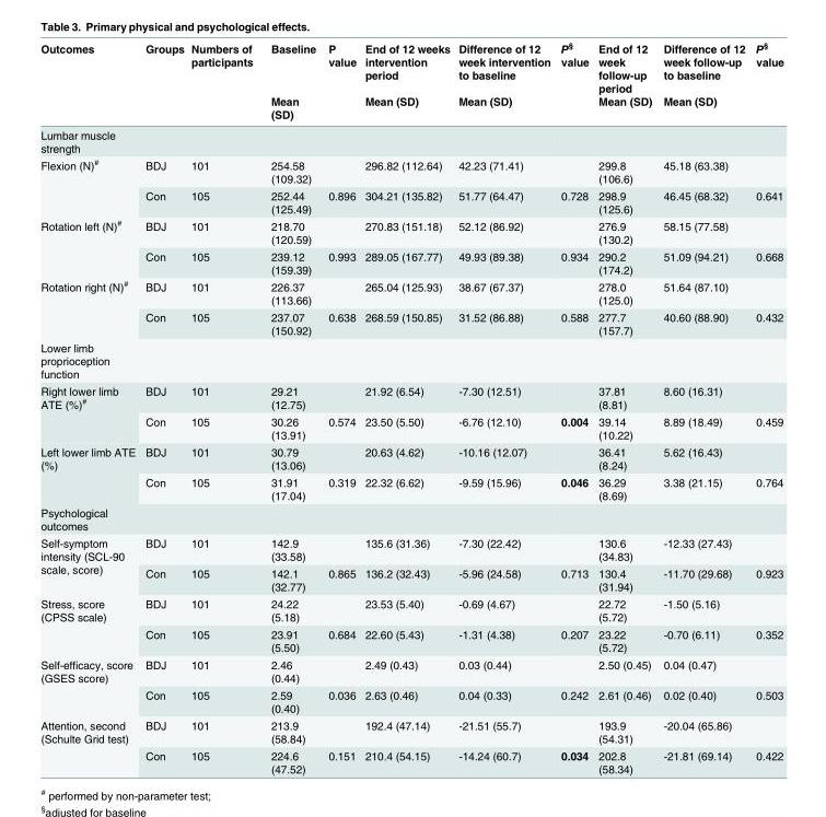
<table><thead><tr><td rowspan="2">Outcomes</td><td rowspan="2">Groups</td><td rowspan="2">Numbers of participants</td><td rowspan="2">Baseline Mean (SD)</td><td rowspan="2">P value</td><td rowspan="2">End of 12 weeks intervention period Mean (SD)</td><td rowspan="2">Difference of 12 week intervention to baseline Mean (SD)</td><td rowspan="2">P<sup>§</sup> value</td><td rowspan="2">End of 12 week follow-up period Mean (SD)</td><td rowspan="2">Difference of 12 week follow-up to baseline Mean (SD)</td><td rowspan="2">P<sup>§</sup> value</td></tr><tr></tr></thead><tbody><tr><td colspan="11">Lumbar muscle strength</td></tr><tr><td rowspan="2">Flexion (N)<sup>#</sup></td><td>BDJ</td><td>101</td><td>254.58 (109.32)</td><td></td><td>296.82 (112.64)</td><td>42.23 (71.41)</td><td></td><td>299.8 (106.6)</td><td>45.18 (63.38)</td><td></td></tr><tr><td>Con</td><td>105</td><td>252.44 (125.49)</td><td>0.896</td><td>304.21 (135.82)</td><td>51.77 (64.47)</td><td>0.728</td><td>298.9 (125.6)</td><td>46.45 (68.32)</td><td>0.641</td></tr><tr><td rowspan="2">Rotation left (N)<sup>#</sup></td><td>BDJ</td><td>101</td><td>218.70 (120.59)</td><td></td><td>270.83 (151.18)</td><td>52.12 (86.92)</td><td></td><td>276.9 (130.2)</td><td>58.15 (77.58)</td><td></td></tr><tr><td>Con</td><td>105</td><td>239.12 (159.39)</td><td>0.993</td><td>289.05 (167.77)</td><td>49.93 (89.38)</td><td>0.934</td><td>290.2 (174.2)</td><td>51.09 (94.21)</td><td>0.668</td></tr><tr><td rowspan="2">Rotation right (N)<sup>#</sup></td><td>BDJ</td><td>101</td><td>226.37 (113.66)</td><td></td><td>265.04 (125.93)</td><td>38.67 (67.37)</td><td></td><td>278.0 (125.0)</td><td>51.64 (87.10)</td><td></td></tr><tr><td>Con</td><td>105</td><td>237.07 (150.92)</td><td>0.638</td><td>268.59 (150.85)</td><td>31.52 (86.88)</td><td>0.588</td><td>277.7 (157.7)</td><td>40.60 (88.90)</td><td>0.432</td></tr><tr><td colspan="11">Lower limb proprioception function</td></tr><tr><td rowspan="2">Right lower limb ATE (%)<sup>#</sup></td><td>BDJ</td><td>101</td><td>29.21 (12.75)</td><td></td><td>21.92 (6.54)</td><td>-7.30 (12.51)</td><td></td><td>37.81 (8.81)</td><td>8.60 (16.31)</td><td></td></tr><tr><td>Con</td><td>105</td><td>30.26 (13.91)</td><td>0.574</td><td>23.50 (5.50)</td><td>-6.76 (12.10)</td><td>0.004</td><td>39.14 (10.22)</td><td>8.89 (18.49)</td><td>0.459</td></tr><tr><td rowspan="2">Left lower limb ATE (%)</td><td>BDJ</td><td>101</td><td>30.79 (13.06)</td><td></td><td>20.63 (4.62)</td><td>-10.16 (12.07)</td><td></td><td>36.41 (8.24)</td><td>5.62 (16.43)</td><td></td></tr><tr><td>Con</td><td>105</td><td>31.91 (17.04)</td><td>0.319</td><td>22.32 (6.62)</td><td>-9.59 (15.96)</td><td>0.046</td><td>36.29 (8.69)</td><td>3.38 (21.15)</td><td>0.764</td></tr><tr><td colspan="11">Psychological outcomes</td></tr><tr><td rowspan="2">Self-symptom intensity (SCL-90 scale, score)</td><td>BDJ</td><td>101</td><td>142.9 (33.58)</td><td></td><td>135.6 (31.36)</td><td>-7.30 (22.42)</td><td></td><td>130.6 (34.83)</td><td>-12.33 (27.43)</td><td></td></tr><tr><td>Con</td><td>105</td><td>142.1 (32.77)</td><td>0.865</td><td>136.2 (32.43)</td><td>-5.96 (24.58)</td><td>0.713</td><td>130.4 (31.94)</td><td>-11.70 (29.68)</td><td>0.923</td></tr><tr><td rowspan="2">Stress, score (CPSS scale)</td><td>BDJ</td><td>101</td><td>24.22 (5.18)</td><td></td><td>23.53 (5.40)</td><td>-0.69 (4.67)</td><td></td><td>22.72 (5.72)</td><td>-1.50 (5.16)</td><td></td></tr><tr><td>Con</td><td>105</td><td>23.91 (5.50)</td><td>0.684</td><td>22.60 (5.43)</td><td>-1.31 (4.38)</td><td>0.207</td><td>23.22 (5.72)</td><td>-0.70 (6.11)</td><td>0.352</td></tr><tr><td rowspan="2">Self-efficacy, score (GSES score)</td><td>BDJ</td><td>101</td><td>2.46 (0.44)</td><td></td><td>2.49 (0.43)</td><td>0.03 (0.44)</td><td></td><td>2.50 (0.45)</td><td>0.04 (0.47)</td><td></td></tr><tr><td>Con</td><td>105</td><td>2.59 (0.40)</td><td>0.036</td><td>2.63 (0.46)</td><td>0.04 (0.33)</td><td>0.242</td><td>2.61 (0.46)</td><td>0.02 (0.40)</td><td>0.503</td></tr><tr><td rowspan="2">Attention, second (Schulte Grid test)</td><td>BDJ</td><td>101</td><td>213.9 (58.84)</td><td></td><td>192.4 (47.14)</td><td>-21.51 (55.7)</td><td></td><td>193.9 (54.31)</td><td>-20.04 (65.86)</td><td></td></tr><tr><td>Con</td><td>105</td><td>224.6 (47.52)</td><td>0.151</td><td>210.4 (54.15)</td><td>-14.24 (60.7)</td><td>0.034</td><td>202.8 (58.34)</td><td>-21.81 (69.14)</td><td>0.422</td></tr></tbody></table>